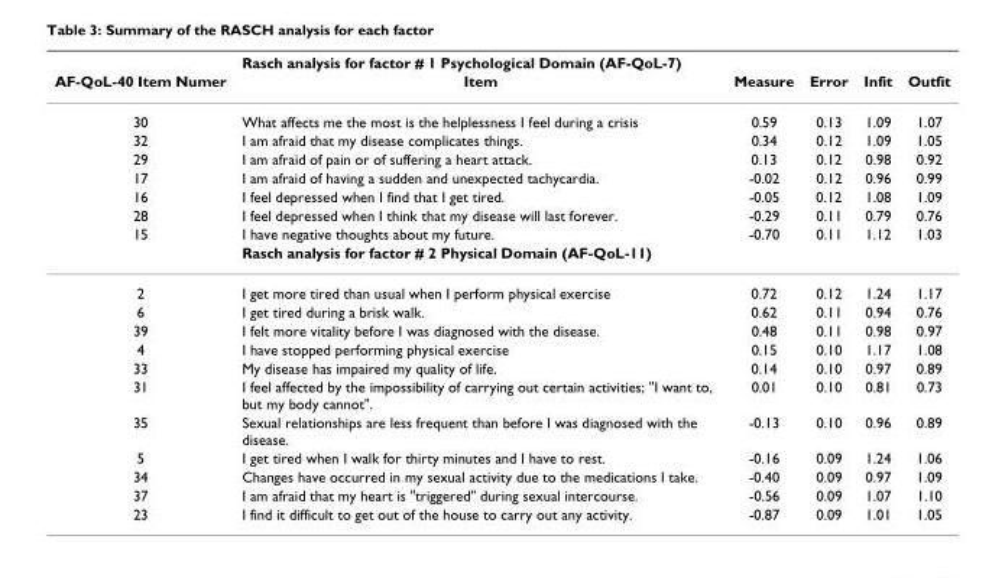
<table><thead><tr><td rowspan="2">AF-QoL-40 Item Numer</td><td rowspan="2">Rasch analysis for factor # 1 Psychological Domain (AF-QoL-7) Item</td><td rowspan="2">Measure</td><td rowspan="2">Error</td><td rowspan="2">Infit</td><td rowspan="2">Outfit</td></tr><tr></tr></thead><tbody><tr><td>30</td><td>What affects me the most is the helplessness I feel during a crisis</td><td>0.59</td><td>0.13</td><td>1.09</td><td>1.07</td></tr><tr><td>32</td><td>I am afraid that my disease complicates things.</td><td>0.34</td><td>0.12</td><td>1.09</td><td>1.05</td></tr><tr><td>29</td><td>I am afraid of pain or of suffering a heart attack.</td><td>0.13</td><td>0.12</td><td>0.98</td><td>0.92</td></tr><tr><td>17</td><td>I am afraid of having a sudden and unexpected tachycardia.</td><td>-0.02</td><td>0.12</td><td>0.96</td><td>0.99</td></tr><tr><td>16</td><td>I feel depressed when I find that I get tired.</td><td>-0.05</td><td>0.12</td><td>1.08</td><td>1.09</td></tr><tr><td>28</td><td>I feel depressed when I think that my disease will last forever.</td><td>-0.29</td><td>0.11</td><td>0.79</td><td>0.76</td></tr><tr><td rowspan="2">15</td><td>I have negative thoughts about my future.</td><td>-0.70</td><td>0.11</td><td>1.12</td><td>1.03</td></tr><tr><td>Rasch analysis for factor # 2 Physical Domain (AF-QoL-11)</td><td></td><td></td><td></td><td></td></tr><tr><td>2</td><td>I get more tired than usual when I perform physical exercise</td><td>0.72</td><td>0.12</td><td>1.24</td><td>1.17</td></tr><tr><td>6</td><td>I get tired during a brisk walk.</td><td>0.62</td><td>0.11</td><td>0.94</td><td>0.76</td></tr><tr><td>39</td><td>I felt more vitality before I was diagnosed with the disease.</td><td>0.48</td><td>0.11</td><td>0.98</td><td>0.97</td></tr><tr><td>4</td><td>I have stopped performing physical exercise</td><td>0.15</td><td>0.10</td><td>1.17</td><td>1.08</td></tr><tr><td>33</td><td>My disease has impaired my quality of life.</td><td>0.14</td><td>0.10</td><td>0.97</td><td>0.89</td></tr><tr><td>31</td><td>I feel affected by the impossibility of carrying out certain activities; &quot;I want to, but my body cannot&quot;.</td><td>0.01</td><td>0.10</td><td>0.81</td><td>0.73</td></tr><tr><td>35</td><td>Sexual relationships are less frequent than before I was diagnosed with the disease.</td><td>-0.13</td><td>0.10</td><td>0.96</td><td>0.89</td></tr><tr><td>5</td><td>I get tired when I walk for thirty minutes and I have to rest.</td><td>-0.16</td><td>0.09</td><td>1.24</td><td>1.06</td></tr><tr><td>34</td><td>Changes have occurred in my sexual activity due to the medications I take.</td><td>-0.40</td><td>0.09</td><td>0.97</td><td>1.09</td></tr><tr><td>37</td><td>I am afraid that my heart is &quot;triggered&quot; during sexual intercourse.</td><td>-0.56</td><td>0.09</td><td>1.07</td><td>1.10</td></tr><tr><td>23</td><td>I find it difficult to get out of the house to carry out any activity.</td><td>-0.87</td><td>0.09</td><td>1.01</td><td>1.05</td></tr></tbody></table>